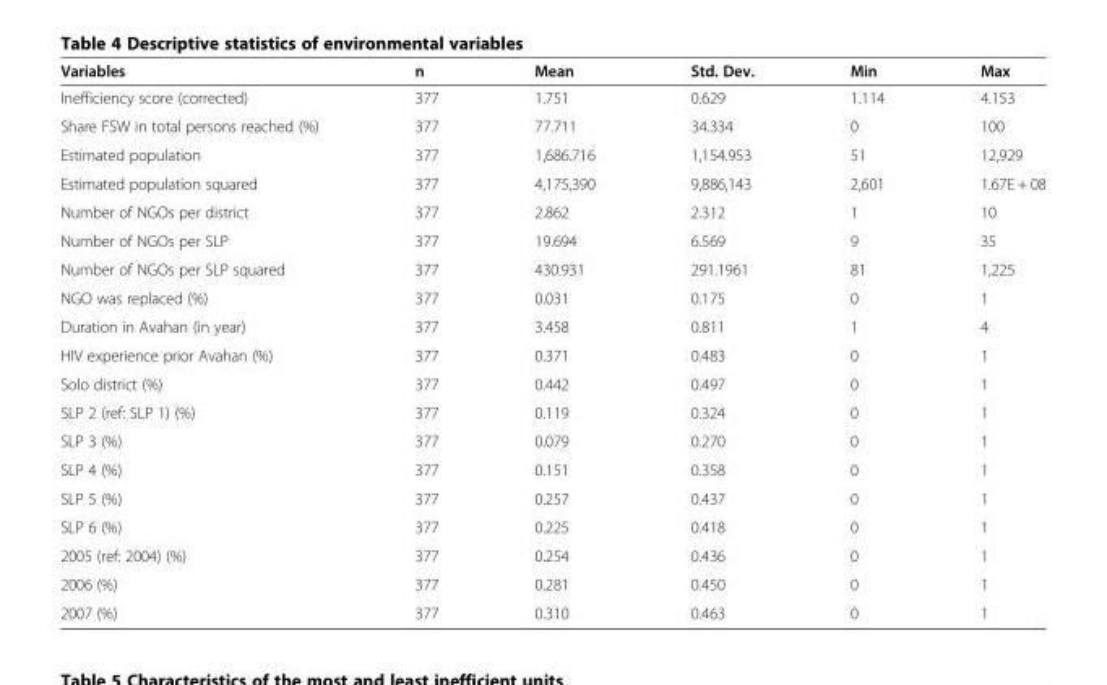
<table><thead><tr><td>Variables</td><td>n</td><td>Mean</td><td>Std. Dev.</td><td>Min</td><td>Max</td></tr></thead><tbody><tr><td>Inefficiency score (corrected)</td><td>377</td><td>1.751</td><td>0.629</td><td>1.114</td><td>4.153</td></tr><tr><td>Share FSW in total persons reached (%)</td><td>377</td><td>77.711</td><td>34.334</td><td>0</td><td>100</td></tr><tr><td>Estimated population</td><td>377</td><td>1,686.716</td><td>1,154.953</td><td>51</td><td>12,929</td></tr><tr><td>Estimated population squared</td><td>377</td><td>4,175,390</td><td>9,886,143</td><td>2,601</td><td>1.67E + 08</td></tr><tr><td>Number of NGOs per district</td><td>377</td><td>2.862</td><td>2.312</td><td>1</td><td>10</td></tr><tr><td>Number of NGOs per SLP</td><td>377</td><td>19.694</td><td>6.569</td><td>9</td><td>35</td></tr><tr><td>Number of NGOs per SLP squared</td><td>377</td><td>430.931</td><td>291.1961</td><td>81</td><td>1,225</td></tr><tr><td>NGO was replaced (%)</td><td>377</td><td>0.031</td><td>0.175</td><td>0</td><td>1</td></tr><tr><td>Duration in Avahan (in year)</td><td>377</td><td>3.458</td><td>0.811</td><td>1</td><td>4</td></tr><tr><td>HIV experience prior Avahan (%)</td><td>377</td><td>0.371</td><td>0.483</td><td>0</td><td>1</td></tr><tr><td>Solo district (%)</td><td>377</td><td>0.442</td><td>0.497</td><td>0</td><td>1</td></tr><tr><td>SLP 2 (ref: SLP 1) (%)</td><td>377</td><td>0.119</td><td>0.324</td><td>0</td><td>1</td></tr><tr><td>SLP 3 (%)</td><td>377</td><td>0.079</td><td>0.270</td><td>0</td><td>1</td></tr><tr><td>SLP 4 (%)</td><td>377</td><td>0.151</td><td>0.358</td><td>0</td><td>1</td></tr><tr><td>SLP 5 (%)</td><td>377</td><td>0.257</td><td>0.437</td><td>0</td><td>1</td></tr><tr><td>SLP 6 (%)</td><td>377</td><td>0.225</td><td>0.418</td><td>0</td><td>1</td></tr><tr><td>2005 (ref: 2004) (%)</td><td>377</td><td>0.254</td><td>0.436</td><td>0</td><td>1</td></tr><tr><td>2006 (%)</td><td>377</td><td>0.281</td><td>0.450</td><td>0</td><td>1</td></tr><tr><td>2007 (%)</td><td>377</td><td>0.310</td><td>0.463</td><td>0</td><td>1</td></tr></tbody></table>